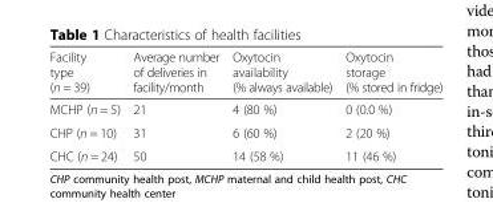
<table><thead><tr><td>Facility type (n = 39)</td><td>Average number of deliveries in facility/month</td><td>Oxytocin availability (% always available)</td><td>Oxytocin storage (% stored in fridge)</td></tr></thead><tbody><tr><td>MCHP (n = 5)</td><td>21</td><td>4 (80 %)</td><td>0 (0.0 %)</td></tr><tr><td>CHP (n = 10)</td><td>31</td><td>6 (60 %)</td><td>2 (20 %)</td></tr><tr><td>CHC (n = 24)</td><td>50</td><td>14 (58 %)</td><td>11 (46 %)</td></tr></tbody></table>